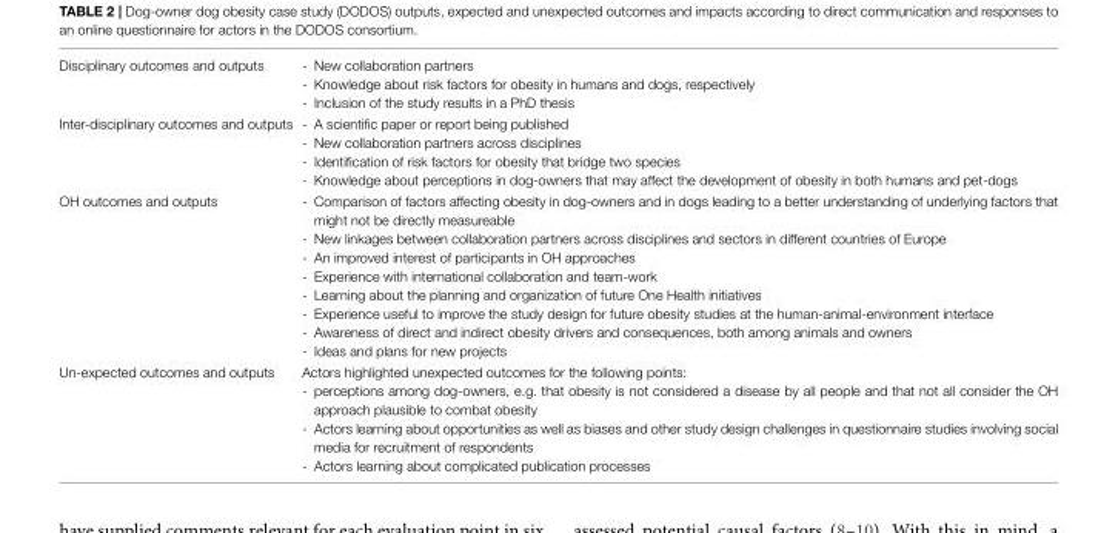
<table><tbody><tr><td>Disciplinary outcomes and outputs</td><td>- New collaboration partners - Knowledge about risk factors for obesity in humans and dogs, respectively - Inclusion of the study results in a PhD thesis</td></tr><tr><td>Inter-disciplinary outcomes and outputs</td><td>- A scientific paper or report being published - New collaboration partners across disciplines - Identification of risk factors for obesity that bridge two species - Knowledge about perceptions in dog-owners that may affect the development of obesity in both humans and pet-dogs</td></tr><tr><td>OH outcomes and outputs</td><td>- Comparison of factors affecting obesity in dog-owners and in dogs leading to a better understanding of underlying factors that might not be directly measureable - New linkages between collaboration partners across disciplines and sectors in different countries of Europe - An improved interest of participants in OH approaches - Experience with international collaboration and team-work - Learning about the planning and organization of future One Health initiatives - Experience useful to improve the study design for future obesity studies at the human-animal-environment interface - Awareness of direct and indirect obesity drivers and consequences, both among animals and owners - Ideas and plans for new projects</td></tr><tr><td>Un-expected outcomes and outputs</td><td>Actors highlighted unexpected outcomes for the following points: - perceptions among dog-owners, e.g. that obesity is not considered a disease by all people and that not all consider the OH approach plausible to combat obesity - Actors learning about opportunities as well as biases and other study design challenges in questionnaire studies involving social media for recruitment of respondents - Actors learning about complicated publication processes</td></tr></tbody></table>